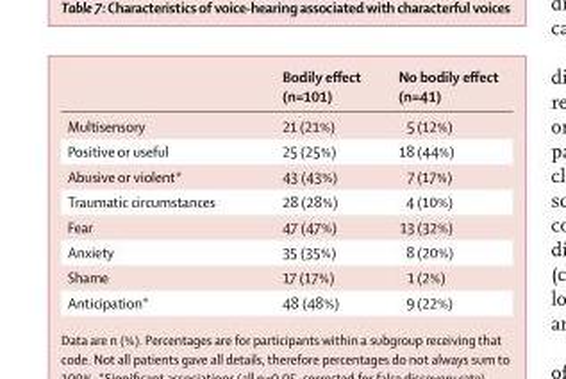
<table><thead><tr><td></td><td>Bodily eff ect (n=101)</td><td>No bodily eff ect (n=41)</td></tr></thead><tbody><tr><td>Multisensory</td><td>21 (21%)</td><td>5 (12%)</td></tr><tr><td>Positive or useful</td><td>25 (25%)</td><td>18 (44%)</td></tr><tr><td>Abusive or violent*</td><td>43 (43%)</td><td>7 (17%)</td></tr><tr><td>Traumatic circumstances</td><td>28 (28%)</td><td>4 (10%)</td></tr><tr><td>Fear</td><td>47 (47%)</td><td>13 (32%)</td></tr><tr><td>Anxiety</td><td>35 (35%)</td><td>8 (20%)</td></tr><tr><td>Shame</td><td>17 (17%)</td><td>1 (2%)</td></tr><tr><td>Anticipation*</td><td>48 (48%)</td><td>9 (22%)</td></tr></tbody></table>